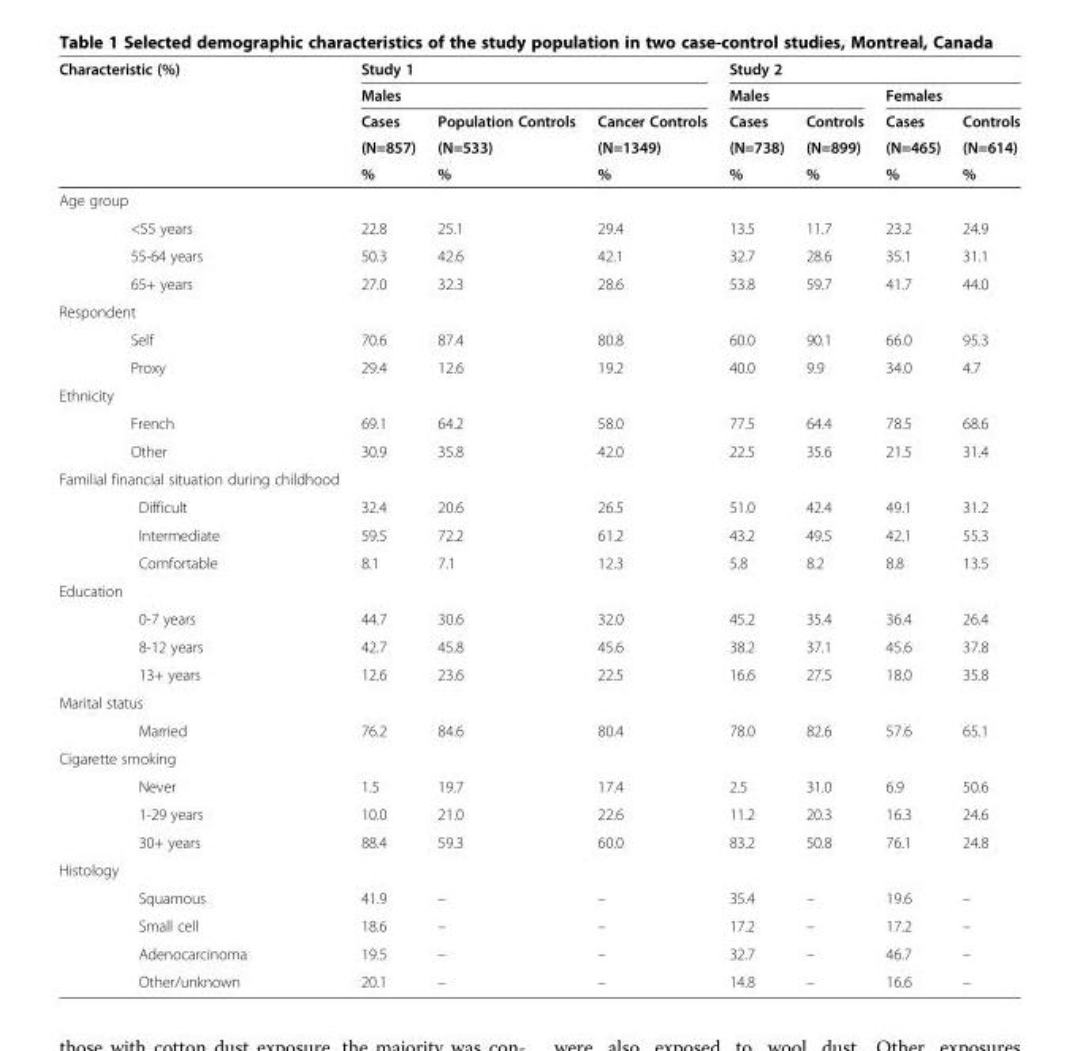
<table><thead><tr><td rowspan="5">Characteristic (%)</td><td rowspan="2" colspan="3">Study 1 Males</td><td colspan="4">Study 2</td></tr><tr><td colspan="2">Males</td><td colspan="2">Females</td></tr><tr><td rowspan="3">Cases (N=857) %</td><td rowspan="3">Population Controls (N=533) %</td><td rowspan="3">Cancer Controls (N=1349) %</td><td rowspan="3">Cases (N=738) %</td><td rowspan="3">Controls (N=899) %</td><td rowspan="3">Cases (N=465) %</td><td rowspan="3">Controls (N=614) %</td></tr><tr></tr><tr></tr></thead><tbody><tr><td colspan="8">Age group</td></tr><tr><td>&lt;55 years</td><td>22.8</td><td>25.1</td><td>29.4</td><td>13.5</td><td>11.7</td><td>23.2</td><td>24.9</td></tr><tr><td>55-64 years</td><td>50.3</td><td>42.6</td><td>42.1</td><td>32.7</td><td>28.6</td><td>35.1</td><td>31.1</td></tr><tr><td>65+ years</td><td>27.0</td><td>32.3</td><td>28.6</td><td>53.8</td><td>59.7</td><td>41.7</td><td>44.0</td></tr><tr><td colspan="8">Respondent</td></tr><tr><td>Self</td><td>70.6</td><td>87.4</td><td>80.8</td><td>60.0</td><td>90.1</td><td>66.0</td><td>95.3</td></tr><tr><td>Proxy</td><td>29.4</td><td>12.6</td><td>19.2</td><td>40.0</td><td>9.9</td><td>34.0</td><td>4.7</td></tr><tr><td colspan="8">Ethnicity</td></tr><tr><td>French</td><td>69.1</td><td>64.2</td><td>58.0</td><td>77.5</td><td>64.4</td><td>78.5</td><td>68.6</td></tr><tr><td>Other</td><td>30.9</td><td>35.8</td><td>42.0</td><td>22.5</td><td>35.6</td><td>21.5</td><td>31.4</td></tr><tr><td colspan="8">Familial financial situation during childhood</td></tr><tr><td>Difficult</td><td>32.4</td><td>20.6</td><td>26.5</td><td>51.0</td><td>42.4</td><td>49.1</td><td>31.2</td></tr><tr><td>Intermediate</td><td>59.5</td><td>72.2</td><td>61.2</td><td>43.2</td><td>49.5</td><td>42.1</td><td>55.3</td></tr><tr><td>Comfortable</td><td>8.1</td><td>7.1</td><td>12.3</td><td>5.8</td><td>8.2</td><td>8.8</td><td>13.5</td></tr><tr><td colspan="8">Education</td></tr><tr><td>0-7 years</td><td>44.7</td><td>30.6</td><td>32.0</td><td>45.2</td><td>35.4</td><td>36.4</td><td>26.4</td></tr><tr><td>8-12 years</td><td>42.7</td><td>45.8</td><td>45.6</td><td>38.2</td><td>37.1</td><td>45.6</td><td>37.8</td></tr><tr><td>13+ years</td><td>12.6</td><td>23.6</td><td>22.5</td><td>16.6</td><td>27.5</td><td>18.0</td><td>35.8</td></tr><tr><td colspan="8">Marital status</td></tr><tr><td>Married</td><td>76.2</td><td>84.6</td><td>80.4</td><td>78.0</td><td>82.6</td><td>57.6</td><td>65.1</td></tr><tr><td colspan="8">Cigarette smoking</td></tr><tr><td>Never</td><td>1.5</td><td>19.7</td><td>17.4</td><td>2.5</td><td>31.0</td><td>6.9</td><td>50.6</td></tr><tr><td>1-29 years</td><td>10.0</td><td>21.0</td><td>22.6</td><td>11.2</td><td>20.3</td><td>16.3</td><td>24.6</td></tr><tr><td>30+ years</td><td>88.4</td><td>59.3</td><td>60.0</td><td>83.2</td><td>50.8</td><td>76.1</td><td>24.8</td></tr><tr><td colspan="8">Histology</td></tr><tr><td>Squamous</td><td>41.9</td><td>–</td><td>–</td><td>35.4</td><td>–</td><td>19.6</td><td>–</td></tr><tr><td>Small cell</td><td>18.6</td><td>–</td><td>–</td><td>17.2</td><td>–</td><td>17.2</td><td>–</td></tr><tr><td>Adenocarcinoma</td><td>19.5</td><td>–</td><td>–</td><td>32.7</td><td>–</td><td>46.7</td><td>–</td></tr><tr><td>Other/unknown</td><td>20.1</td><td>–</td><td>–</td><td>14.8</td><td>–</td><td>16.6</td><td>–</td></tr></tbody></table>